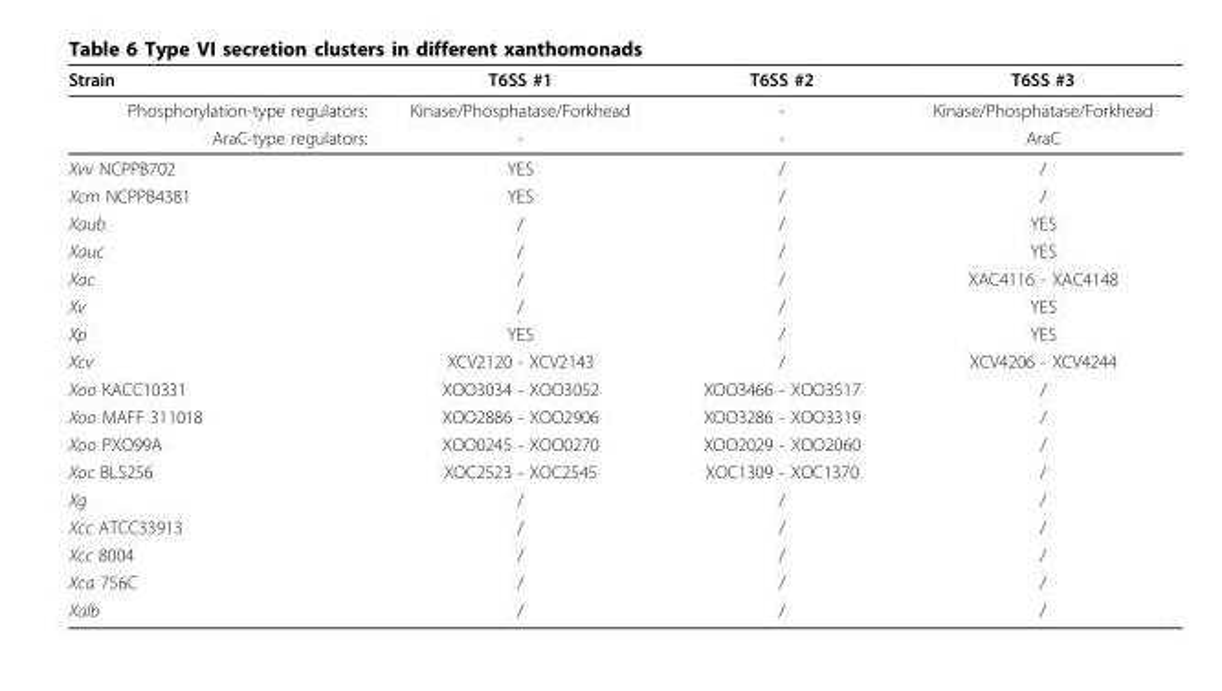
<table><thead><tr><td>Strain</td><td>T6SS #1</td><td>T6SS #2</td><td>T6SS #3</td></tr></thead><tbody><tr><td>Phosphorylation-type regulators:</td><td>Kinase/Phosphatase/Forkhead</td><td>-</td><td>Kinase/Phosphatase/Forkhead</td></tr><tr><td>AraC-type regulators:</td><td>-</td><td>-</td><td>AraC</td></tr><tr><td>Xvv NCPPB702</td><td>YES</td><td>/</td><td>/</td></tr><tr><td>Xcm NCPPB4381</td><td>YES</td><td>/</td><td>/</td></tr><tr><td>Xaub</td><td>/</td><td>/</td><td>YES</td></tr><tr><td>Xauc</td><td>/</td><td>/</td><td>YES</td></tr><tr><td>Xac</td><td>/</td><td>/</td><td>XAC4116 - XAC4148</td></tr><tr><td>Xv</td><td>/</td><td>/</td><td>YES</td></tr><tr><td>Xp</td><td>YES</td><td>/</td><td>YES</td></tr><tr><td>Xcv</td><td>XCV2120 - XCV2143</td><td>/</td><td>XCV4206 - XCV4244</td></tr><tr><td>Xoo KACC10331</td><td>XOO3034 - XOO3052</td><td>XOO3466 - XOO3517</td><td>/</td></tr><tr><td>Xoo MAFF 311018</td><td>XOO2886 - XOO2906</td><td>XOO3286 - XOO3319</td><td>/</td></tr><tr><td>Xoo PXO99A</td><td>XOO0245 - XOO0270</td><td>XOO2029 - XOO2060</td><td>/</td></tr><tr><td>Xoc BLS256</td><td>XOC2523 - XOC2545</td><td>XOC1309 - XOC1370</td><td>/</td></tr><tr><td>Xg</td><td>/</td><td>/</td><td>/</td></tr><tr><td>Xcc ATCC33913</td><td>/</td><td>/</td><td>/</td></tr><tr><td>Xcc 8004</td><td>/</td><td>/</td><td>/</td></tr><tr><td>Xca 756C</td><td>/</td><td>/</td><td>/</td></tr><tr><td>Xalb</td><td>/</td><td>/</td><td>/</td></tr></tbody></table>